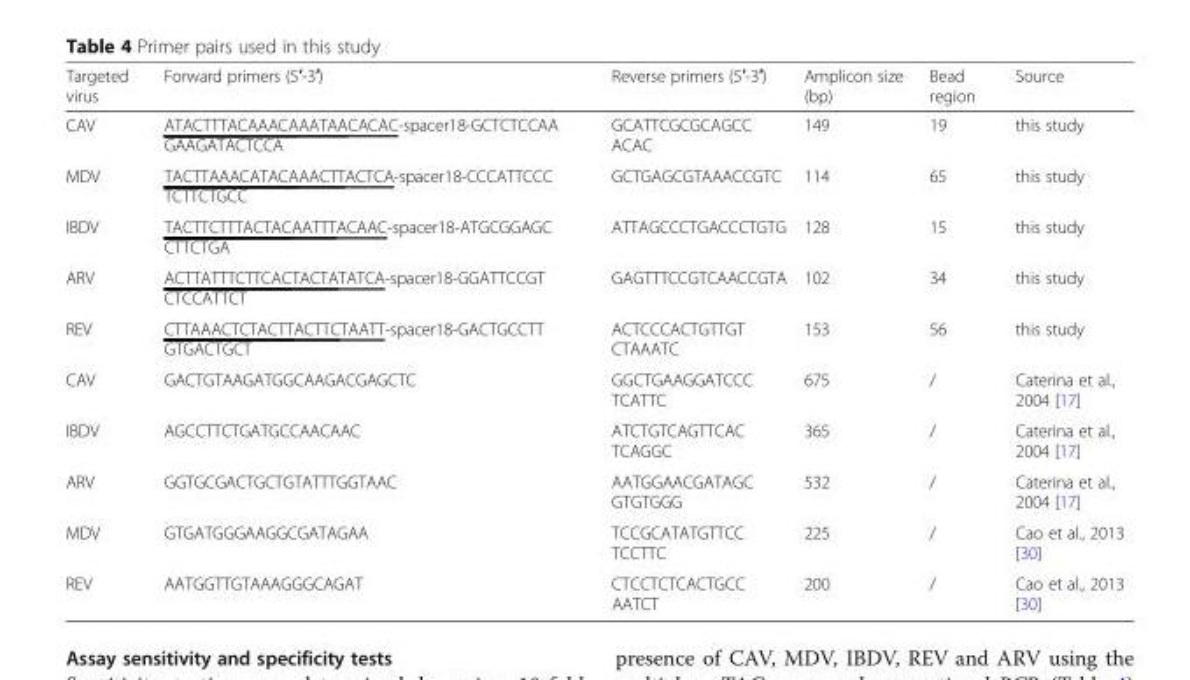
<table><thead><tr><td>Targeted virus</td><td>Forward primers (5′-3′)</td><td>Reverse primers (5′-3′)</td><td>Amplicon size (bp)</td><td>Bead region</td><td>Source</td></tr></thead><tbody><tr><td>CAV</td><td>ATACTTTACAAACAAATAACACAC-spacer18-GCTCTCCAA GAAGATACTCCA</td><td>GCATTCGCGCAGCC ACAC</td><td>149</td><td>19</td><td>this study</td></tr><tr><td>MDV</td><td>TACTTAAACATACAAACTTACTCA-spacer18-CCCATTCCC TCTTCTGCC</td><td>GCTGAGCGTAAACCGTC</td><td>114</td><td>65</td><td>this study</td></tr><tr><td>IBDV</td><td>TACTTCTTTACTACAATTTACAAC-spacer18-ATGCGGAGC CTTCTGA</td><td>ATTAGCCCTGACCCTGTG</td><td>128</td><td>15</td><td>this study</td></tr><tr><td>ARV</td><td>ACTTATTTCTTCACTACTATATCA-spacer18-GGATTCCGT CTCCATTCT</td><td>GAGTTTCCGTCAACCGTA</td><td>102</td><td>34</td><td>this study</td></tr><tr><td>REV</td><td>CTTAAACTCTACTTACTTCTAATT-spacer18-GACTGCCTT GTGACTGCT</td><td>ACTCCCACTGTTGT CTAAATC</td><td>153</td><td>56</td><td>this study</td></tr><tr><td>CAV</td><td>GACTGTAAGATGGCAAGACGAGCTC</td><td>GGCTGAAGGATCCC TCATTC</td><td>675</td><td>/</td><td>Caterina et al., 2004 [17]</td></tr><tr><td>IBDV</td><td>AGCCTTCTGATGCCAACAAC</td><td>ATCTGTCAGTTCAC TCAGGC</td><td>365</td><td>/</td><td>Caterina et al., 2004 [17]</td></tr><tr><td>ARV</td><td>GGTGCGACTGCTGTATTTGGTAAC</td><td>AATGGAACGATAGC GTGTGGG</td><td>532</td><td>/</td><td>Caterina et al., 2004 [17]</td></tr><tr><td>MDV</td><td>GTGATGGGAAGGCGATAGAA</td><td>TCCGCATATGTTCC TCCTTC</td><td>225</td><td>/</td><td>Cao et al., 2013 [30]</td></tr><tr><td>REV</td><td>AATGGTTGTAAAGGGCAGAT</td><td>CTCCTCTCACTGCC AATCT</td><td>200</td><td>/</td><td>Cao et al., 2013 [30]</td></tr></tbody></table>